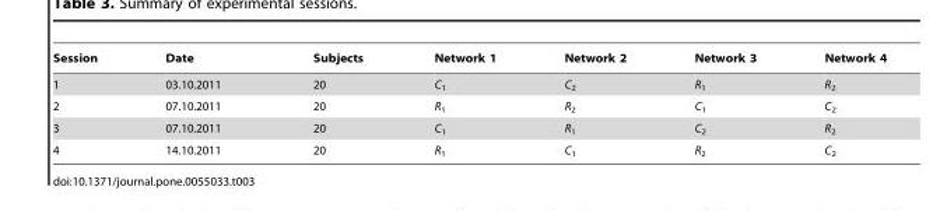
<table><thead><tr><td>Session</td><td>Date</td><td>Subjects</td><td>Network 1</td><td>Network 2</td><td>Network 3</td><td>Network 4</td></tr></thead><tbody><tr><td>1</td><td>03.10.2011</td><td>20</td><td>C<sub>1</sub></td><td>C<sub>2</sub></td><td>R<sub>1</sub></td><td>R<sub>2</sub></td></tr><tr><td>2</td><td>07.10.2011</td><td>20</td><td>R<sub>1</sub></td><td>R<sub>2</sub></td><td>C<sub>1</sub></td><td>C<sub>2</sub></td></tr><tr><td>3</td><td>07.10.2011</td><td>20</td><td>C<sub>1</sub></td><td>R<sub>1</sub></td><td>C<sub>2</sub></td><td>R<sub>2</sub></td></tr><tr><td>4</td><td>14.10.2011</td><td>20</td><td>R<sub>1</sub></td><td>C<sub>1</sub></td><td>R<sub>2</sub></td><td>C<sub>2</sub></td></tr></tbody></table>